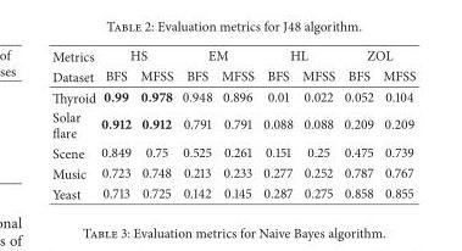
<table><thead><tr><td rowspan="2">Metrics Dataset</td><td colspan="2">HS</td><td colspan="2">EM</td><td colspan="2">HL</td><td colspan="2">ZOL</td></tr><tr><td>BFS</td><td>MFSS</td><td>BFS</td><td>MFSS</td><td>BFS</td><td>MFSS</td><td>BFS</td><td>MFSS</td></tr></thead><tbody><tr><td>Thyroid</td><td>0.99</td><td>0.978</td><td>0.948</td><td>0.896</td><td>0.01</td><td>0.022</td><td>0.052</td><td>0.104</td></tr><tr><td>Solar flare</td><td>0.912</td><td>0.912</td><td>0.791</td><td>0.791</td><td>0.088</td><td>0.088</td><td>0.209</td><td>0.209</td></tr><tr><td>Scene</td><td>0.849</td><td>0.75</td><td>0.525</td><td>0.261</td><td>0.151</td><td>0.25</td><td>0.475</td><td>0.739</td></tr><tr><td>Music</td><td>0.723</td><td>0.748</td><td>0.213</td><td>0.233</td><td>0.277</td><td>0.252</td><td>0.787</td><td>0.767</td></tr><tr><td>Yeast</td><td>0.713</td><td>0.725</td><td>0.142</td><td>0.145</td><td>0.287</td><td>0.275</td><td>0.858</td><td>0.855</td></tr></tbody></table>